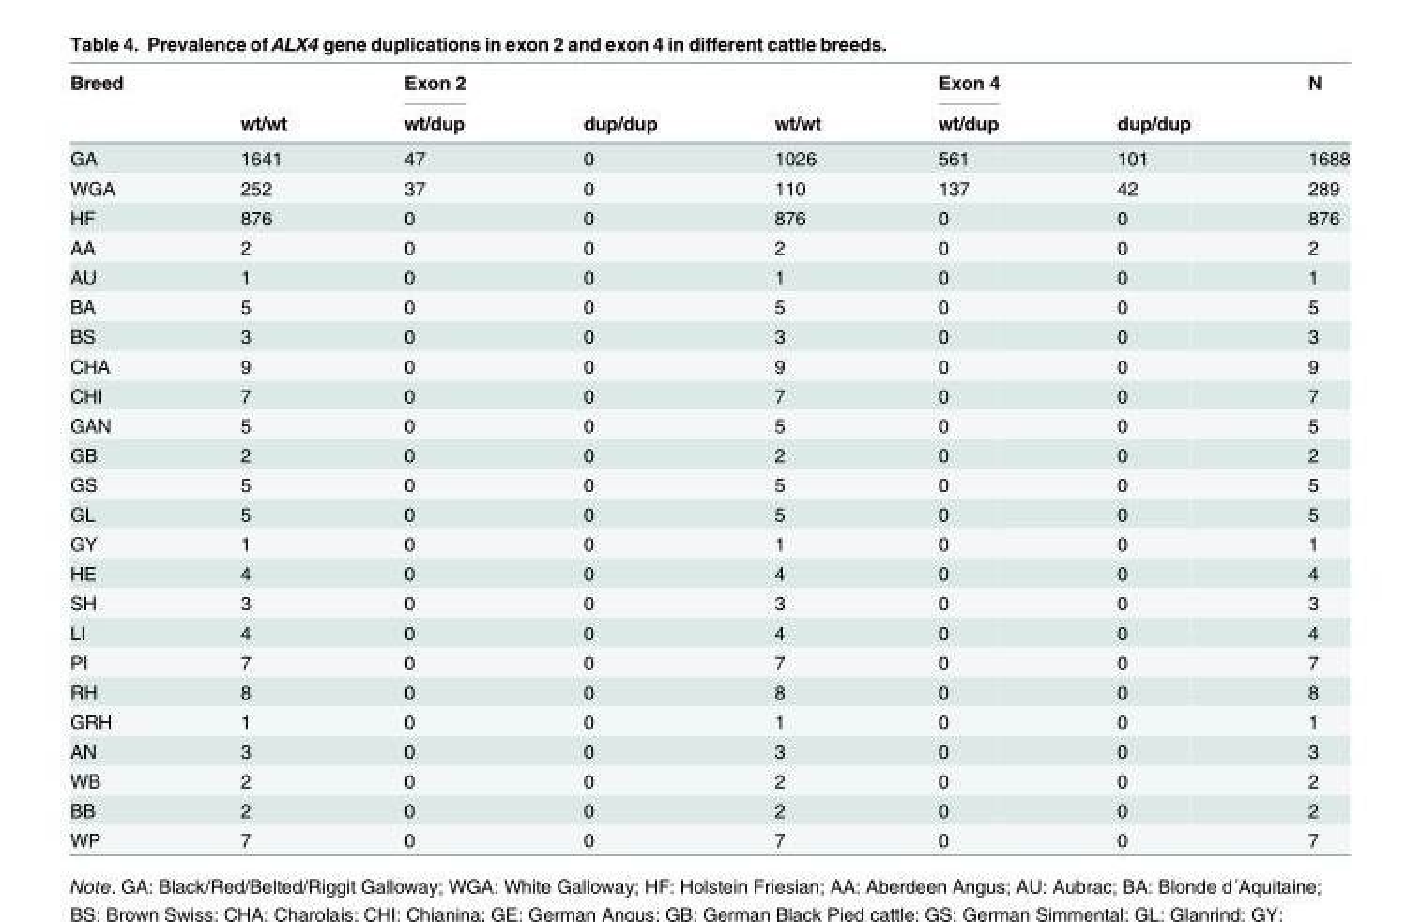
<table><thead><tr><td rowspan="2">Breed</td><td rowspan="2">wt/wt</td><td rowspan="2">Exon 2 wt/dup</td><td rowspan="2">dup/dup</td><td rowspan="2">wt/wt</td><td rowspan="2">Exon 4 wt/dup</td><td rowspan="2">dup/dup</td><td rowspan="2">N</td></tr><tr></tr></thead><tbody><tr><td>GA</td><td>1641</td><td>47</td><td>0</td><td>1026</td><td>561</td><td>101</td><td>1688</td></tr><tr><td>WGA</td><td>252</td><td>37</td><td>0</td><td>110</td><td>137</td><td>42</td><td>289</td></tr><tr><td>HF</td><td>876</td><td>0</td><td>0</td><td>876</td><td>0</td><td>0</td><td>876</td></tr><tr><td>AA</td><td>2</td><td>0</td><td>0</td><td>2</td><td>0</td><td>0</td><td>2</td></tr><tr><td>AU</td><td>1</td><td>0</td><td>0</td><td>1</td><td>0</td><td>0</td><td>1</td></tr><tr><td>BA</td><td>5</td><td>0</td><td>0</td><td>5</td><td>0</td><td>0</td><td>5</td></tr><tr><td>BS</td><td>3</td><td>0</td><td>0</td><td>3</td><td>0</td><td>0</td><td>3</td></tr><tr><td>CHA</td><td>9</td><td>0</td><td>0</td><td>9</td><td>0</td><td>0</td><td>9</td></tr><tr><td>CHI</td><td>7</td><td>0</td><td>0</td><td>7</td><td>0</td><td>0</td><td>7</td></tr><tr><td>GAN</td><td>5</td><td>0</td><td>0</td><td>5</td><td>0</td><td>0</td><td>5</td></tr><tr><td>GB</td><td>2</td><td>0</td><td>0</td><td>2</td><td>0</td><td>0</td><td>2</td></tr><tr><td>GS</td><td>5</td><td>0</td><td>0</td><td>5</td><td>0</td><td>0</td><td>5</td></tr><tr><td>GL</td><td>5</td><td>0</td><td>0</td><td>5</td><td>0</td><td>0</td><td>5</td></tr><tr><td>GY</td><td>1</td><td>0</td><td>0</td><td>1</td><td>0</td><td>0</td><td>1</td></tr><tr><td>HE</td><td>4</td><td>0</td><td>0</td><td>4</td><td>0</td><td>0</td><td>4</td></tr><tr><td>SH</td><td>3</td><td>0</td><td>0</td><td>3</td><td>0</td><td>0</td><td>3</td></tr><tr><td>LI</td><td>4</td><td>0</td><td>0</td><td>4</td><td>0</td><td>0</td><td>4</td></tr><tr><td>PI</td><td>7</td><td>0</td><td>0</td><td>7</td><td>0</td><td>0</td><td>7</td></tr><tr><td>RH</td><td>8</td><td>0</td><td>0</td><td>8</td><td>0</td><td>0</td><td>8</td></tr><tr><td>GRH</td><td>1</td><td>0</td><td>0</td><td>1</td><td>0</td><td>0</td><td>1</td></tr><tr><td>AN</td><td>3</td><td>0</td><td>0</td><td>3</td><td>0</td><td>0</td><td>3</td></tr><tr><td>WB</td><td>2</td><td>0</td><td>0</td><td>2</td><td>0</td><td>0</td><td>2</td></tr><tr><td>BB</td><td>2</td><td>0</td><td>0</td><td>2</td><td>0</td><td>0</td><td>2</td></tr><tr><td>WP</td><td>7</td><td>0</td><td>0</td><td>7</td><td>0</td><td>0</td><td>7</td></tr></tbody></table>